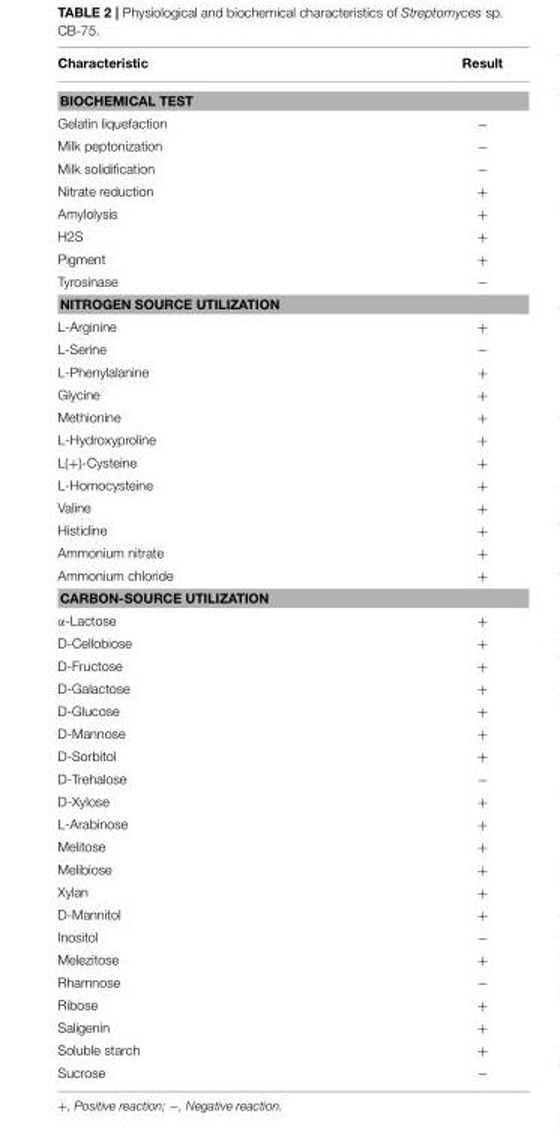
<table><thead><tr><td>Characteristic</td><td>Result</td></tr></thead><tbody><tr><td colspan="2">BIOCHEMICAL TEST</td></tr><tr><td>Gelatin liquefaction</td><td>−</td></tr><tr><td>Milk peptonization</td><td>−</td></tr><tr><td>Milk solidification</td><td>−</td></tr><tr><td>Nitrate reduction</td><td>+</td></tr><tr><td>Amylolysis</td><td>+</td></tr><tr><td>H2S</td><td>+</td></tr><tr><td>Pigment</td><td>+</td></tr><tr><td>Tyrosinase</td><td>−</td></tr><tr><td colspan="2">NITROGEN SOURCE UTILIZATION</td></tr><tr><td>L-Arginine</td><td>+</td></tr><tr><td>L-Serine</td><td>−</td></tr><tr><td>L-Phenylalanine</td><td>+</td></tr><tr><td>Glycine</td><td>+</td></tr><tr><td>Methionine</td><td>+</td></tr><tr><td>L-Hydroxyproline</td><td>+</td></tr><tr><td>L(+)-Cysteine</td><td>+</td></tr><tr><td>L-Homocysteine</td><td>+</td></tr><tr><td>Valine</td><td>+</td></tr><tr><td>Histidine</td><td>+</td></tr><tr><td>Ammonium nitrate</td><td>+</td></tr><tr><td>Ammonium chloride</td><td>+</td></tr><tr><td colspan="2">CARBON-SOURCE UTILIZATION</td></tr><tr><td>α-Lactose</td><td>+</td></tr><tr><td>D-Cellobiose</td><td>+</td></tr><tr><td>D-Fructose</td><td>+</td></tr><tr><td>D-Galactose</td><td>+</td></tr><tr><td>D-Glucose</td><td>+</td></tr><tr><td>D-Mannose</td><td>+</td></tr><tr><td>D-Sorbitol</td><td>+</td></tr><tr><td>D-Trehalose</td><td>−</td></tr><tr><td>D-Xylose</td><td>+</td></tr><tr><td>L-Arabinose</td><td>+</td></tr><tr><td>Melitose</td><td>+</td></tr><tr><td>Melibiose</td><td>+</td></tr><tr><td>Xylan</td><td>+</td></tr><tr><td>D-Mannitol</td><td>+</td></tr><tr><td>Inositol</td><td>−</td></tr><tr><td>Melezitose</td><td>+</td></tr><tr><td>Rhamnose</td><td>−</td></tr><tr><td>Ribose</td><td>+</td></tr><tr><td>Saligenin</td><td>+</td></tr><tr><td>Soluble starch</td><td>+</td></tr><tr><td>Sucrose</td><td>−</td></tr></tbody></table>